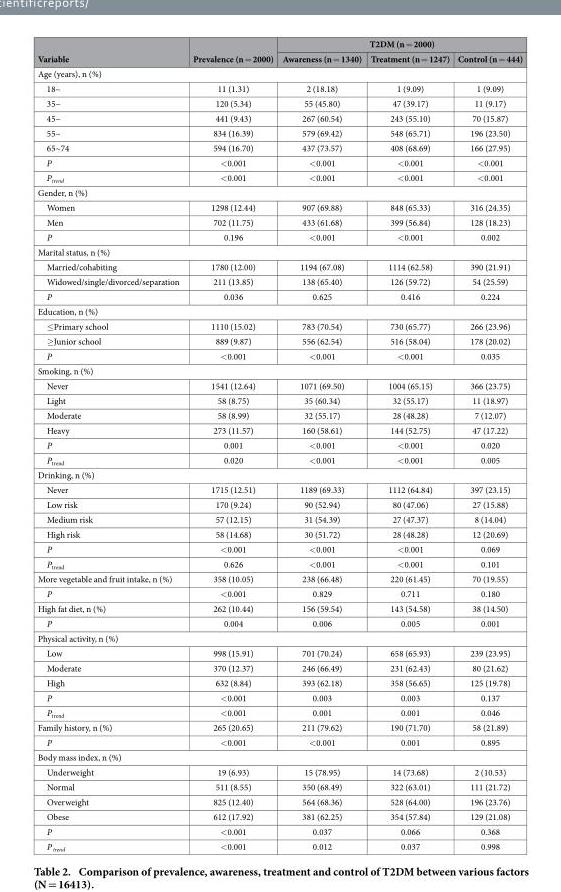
<table><thead><tr><td rowspan="2">Variable</td><td rowspan="2">Prevalence (n = 2000)</td><td colspan="3">T2DM (n = 2000)</td></tr><tr><td>Awareness (n = 1340)</td><td>Treatment (n = 1247)</td><td>Control (n = 444)</td></tr></thead><tbody><tr><td colspan="5">Age (years), n (%)</td></tr><tr><td>18~</td><td>11 (1.31)</td><td>2 (18.18)</td><td>1 (9.09)</td><td>1 (9.09)</td></tr><tr><td>35~</td><td>120 (5.34)</td><td>55 (45.80)</td><td>47 (39.17)</td><td>11 (9.17)</td></tr><tr><td>45~</td><td>441 (9.43)</td><td>267 (60.54)</td><td>243 (55.10)</td><td>70 (15.87)</td></tr><tr><td>55~</td><td>834 (16.39)</td><td>579 (69.42)</td><td>548 (65.71)</td><td>196 (23.50)</td></tr><tr><td>65~74</td><td>594 (16.70)</td><td>437 (73.57)</td><td>408 (68.69)</td><td>166 (27.95)</td></tr><tr><td>P</td><td>&lt; 0.001</td><td>&lt; 0.001</td><td>&lt; 0.001</td><td>&lt; 0.001</td></tr><tr><td>P<sub>trend</sub></td><td>&lt; 0.001</td><td>&lt; 0.001</td><td>&lt; 0.001</td><td>&lt; 0.001</td></tr><tr><td colspan="5">Gender, n (%)</td></tr><tr><td>Women</td><td>1298 (12.44)</td><td>907 (69.88)</td><td>848 (65.33)</td><td>316 (24.35)</td></tr><tr><td>Men</td><td>702 (11.75)</td><td>433 (61.68)</td><td>399 (56.84)</td><td>128 (18.23)</td></tr><tr><td>P</td><td>0.196</td><td>&lt; 0.001</td><td>&lt; 0.001</td><td>0.002</td></tr><tr><td colspan="5">Marital status, n (%)</td></tr><tr><td>Married/cohabiting</td><td>1780 (12.00)</td><td>1194 (67.08)</td><td>1114 (62.58)</td><td>390 (21.91)</td></tr><tr><td>Widowed/single/divorced/separation</td><td>211 (13.85)</td><td>138 (65.40)</td><td>126 (59.72)</td><td>54 (25.59)</td></tr><tr><td>P</td><td>0.036</td><td>0.625</td><td>0.416</td><td>0.224</td></tr><tr><td colspan="5">Education, n (%)</td></tr><tr><td>≤ Primary school</td><td>1110 (15.02)</td><td>783 (70.54)</td><td>730 (65.77)</td><td>266 (23.96)</td></tr><tr><td>≥ Junior school</td><td>889 (9.87)</td><td>556 (62.54)</td><td>516 (58.04)</td><td>178 (20.02)</td></tr><tr><td>P</td><td>&lt; 0.001</td><td>&lt; 0.001</td><td>&lt; 0.001</td><td>0.035</td></tr><tr><td colspan="5">Smoking, n (%)</td></tr><tr><td>Never</td><td>1541 (12.64)</td><td>1071 (69.50)</td><td>1004 (65.15)</td><td>366 (23.75)</td></tr><tr><td>Light</td><td>58 (8.75)</td><td>35 (60.34)</td><td>32 (55.17)</td><td>11 (18.97)</td></tr><tr><td>Moderate</td><td>58 (8.99)</td><td>32 (55.17)</td><td>28 (48.28)</td><td>7 (12.07)</td></tr><tr><td>Heavy</td><td>273 (11.57)</td><td>160 (58.61)</td><td>144 (52.75)</td><td>47 (17.22)</td></tr><tr><td>P</td><td>0.001</td><td>&lt; 0.001</td><td>&lt; 0.001</td><td>0.020</td></tr><tr><td>P<sub>trend</sub></td><td>0.020</td><td>&lt; 0.001</td><td>&lt; 0.001</td><td>0.005</td></tr><tr><td colspan="5">Drinking, n (%)</td></tr><tr><td>Never</td><td>1715 (12.51)</td><td>1189 (69.33)</td><td>1112 (64.84)</td><td>397 (23.15)</td></tr><tr><td>Low risk</td><td>170 (9.24)</td><td>90 (52.94)</td><td>80 (47.06)</td><td>27 (15.88)</td></tr><tr><td>Medium risk</td><td>57 (12.15)</td><td>31 (54.39)</td><td>27 (47.37)</td><td>8 (14.04)</td></tr><tr><td>High risk</td><td>58 (14.68)</td><td>30 (51.72)</td><td>28 (48.28)</td><td>12 (20.69)</td></tr><tr><td>P</td><td>&lt; 0.001</td><td>&lt; 0.001</td><td>&lt; 0.001</td><td>0.069</td></tr><tr><td>P<sub>trend</sub></td><td>0.626</td><td>&lt; 0.001</td><td>&lt; 0.001</td><td>0.101</td></tr><tr><td>More vegetable and fruit intake, n (%)</td><td>358 (10.05)</td><td>238 (66.48)</td><td>220 (61.45)</td><td>70 (19.55)</td></tr><tr><td>P</td><td>&lt; 0.001</td><td>0.829</td><td>0.711</td><td>0.180</td></tr><tr><td>High fat diet, n (%)</td><td>262 (10.44)</td><td>156 (59.54)</td><td>143 (54.58)</td><td>38 (14.50)</td></tr><tr><td>P</td><td>0.004</td><td>0.006</td><td>0.005</td><td>0.001</td></tr><tr><td colspan="5">Physical activity, n (%)</td></tr><tr><td>Low</td><td>998 (15.91)</td><td>701 (70.24)</td><td>658 (65.93)</td><td>239 (23.95)</td></tr><tr><td>Moderate</td><td>370 (12.37)</td><td>246 (66.49)</td><td>231 (62.43)</td><td>80 (21.62)</td></tr><tr><td>High</td><td>632 (8.84)</td><td>393 (62.18)</td><td>358 (56.65)</td><td>125 (19.78)</td></tr><tr><td>P</td><td>&lt; 0.001</td><td>0.003</td><td>0.003</td><td>0.137</td></tr><tr><td>P<sub>trend</sub></td><td>&lt; 0.001</td><td>0.001</td><td>0.001</td><td>0.046</td></tr><tr><td>Family history, n (%)</td><td>265 (20.65)</td><td>211 (79.62)</td><td>190 (71.70)</td><td>58 (21.89)</td></tr><tr><td>P</td><td>&lt; 0.001</td><td>&lt; 0.001</td><td>0.001</td><td>0.895</td></tr><tr><td colspan="5">Body mass index, n (%)</td></tr><tr><td>Underweight</td><td>19 (6.93)</td><td>15 (78.95)</td><td>14 (73.68)</td><td>2 (10.53)</td></tr><tr><td>Normal</td><td>511 (8.55)</td><td>350 (68.49)</td><td>322 (63.01)</td><td>111 (21.72)</td></tr><tr><td>Overweight</td><td>825 (12.40)</td><td>564 (68.36)</td><td>528 (64.00)</td><td>196 (23.76)</td></tr><tr><td>Obese</td><td>612 (17.92)</td><td>381 (62.25)</td><td>354 (57.84)</td><td>129 (21.08)</td></tr><tr><td>P</td><td>&lt; 0.001</td><td>0.037</td><td>0.066</td><td>0.368</td></tr><tr><td>P <sub>trend</sub></td><td>&lt; 0.001</td><td>0.012</td><td>0.037</td><td>0.998</td></tr></tbody></table>